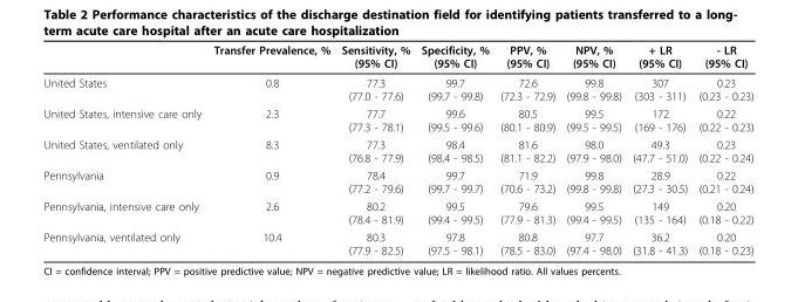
<table><thead><tr><td></td><td>Transfer Prevalence, %</td><td>Sensitivity, % (95% CI)</td><td>Specificity, % (95% CI)</td><td>PPV, % (95% CI)</td><td>NPV, % (95% CI)</td><td>+ LR (95% CI)</td><td>- LR (95% CI)</td></tr></thead><tbody><tr><td>United States</td><td>0.8</td><td>77.3 (77.0 - 77.6)</td><td>99.7 (99.7 - 99.8)</td><td>72.6 (72.3 - 72.9)</td><td>99.8 (99.8 - 99.8)</td><td>307 (303 - 311)</td><td>0.23 (0.23 - 0.23)</td></tr><tr><td>United States, intensive care only</td><td>2.3</td><td>77.7 (77.3 - 78.1)</td><td>99.6 (99.5 - 99.6)</td><td>80.5 (80.1 - 80.9)</td><td>99.5 (99.5 - 99.5)</td><td>172 (169 - 176)</td><td>0.22 (0.22 - 0.23)</td></tr><tr><td>United States, ventilated only</td><td>8.3</td><td>77.3 (76.8 - 77.9)</td><td>98.4 (98.4 - 98.5)</td><td>81.6 (81.1 - 82.2)</td><td>98.0 (97.9 - 98.0)</td><td>49.3 (47.7 - 51.0)</td><td>0.23 (0.22 - 0.24)</td></tr><tr><td>Pennsylvania</td><td>0.9</td><td>78.4 (77.2 - 79.6)</td><td>99.7 (99.7 - 99.7)</td><td>71.9 (70.6 - 73.2)</td><td>99.8 (99.8 - 99.8)</td><td>28.9 (27.3 - 30.5)</td><td>0.22 (0.21 - 0.24)</td></tr><tr><td>Pennsylvania, intensive care only</td><td>2.6</td><td>80.2 (78.4 - 81.9)</td><td>99.5 (99.4 - 99.5)</td><td>79.6 (77.9 - 81.3)</td><td>99.5 (99.4 - 99.5)</td><td>149 (135 - 164)</td><td>0.20 (0.18 - 0.22)</td></tr><tr><td>Pennsylvania, ventilated only</td><td>10.4</td><td>80.3 (77.9 - 82.5)</td><td>97.8 (97.5 - 98.1)</td><td>80.8 (78.5 - 83.0)</td><td>97.7 (97.4 - 98.0)</td><td>36.2 (31.8 - 41.3)</td><td>0.20 (0.18 - 0.23)</td></tr></tbody></table>